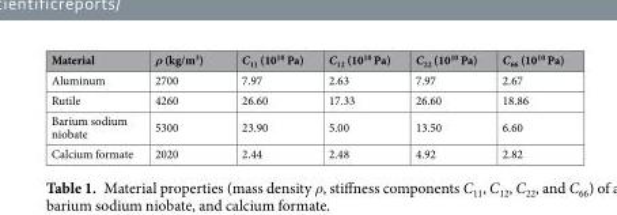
<table><thead><tr><td>Material</td><td>ρ (kg/m<sup>3</sup>)</td><td>C<sub>11</sub> (10<sup>10</sup> Pa)</td><td>C<sub>12</sub> (10<sup>10</sup> Pa)</td><td>C<sub>22</sub> (10<sup>10</sup> Pa)</td><td>C<sub>66</sub> (10<sup>10</sup> Pa)</td></tr></thead><tbody><tr><td>Aluminum</td><td>2700</td><td>7.97</td><td>2.63</td><td>7.97</td><td>2.67</td></tr><tr><td>Rutile</td><td>4260</td><td>26.60</td><td>17.33</td><td>26.60</td><td>18.86</td></tr><tr><td>Barium sodium niobate</td><td>5300</td><td>23.90</td><td>5.00</td><td>13.50</td><td>6.60</td></tr><tr><td>Calcium formate</td><td>2020</td><td>2.44</td><td>2.48</td><td>4.92</td><td>2.82</td></tr></tbody></table>